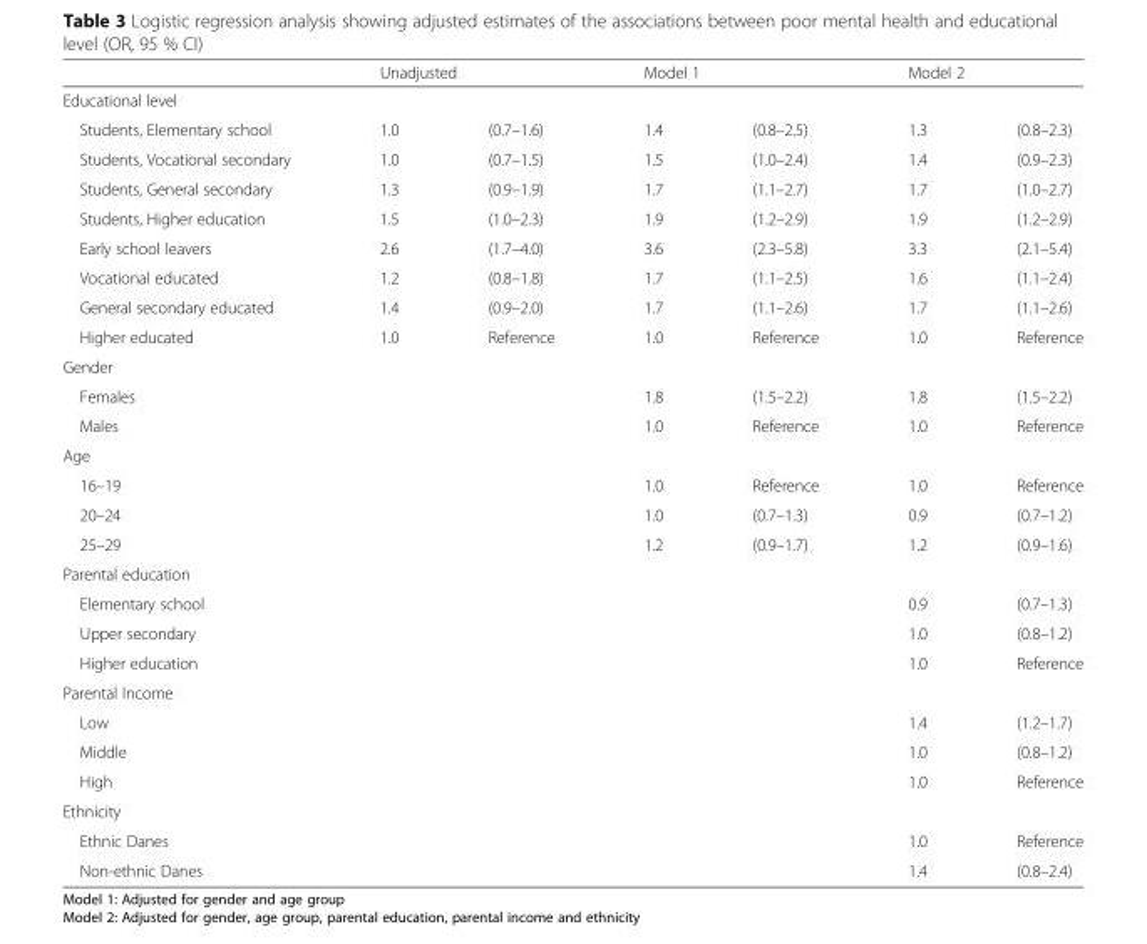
<table><thead><tr><td></td><td colspan="2">Unadjusted</td><td colspan="2">Model 1</td><td colspan="2">Model 2</td></tr><tr><td colspan="7">Educational level</td></tr><tr><td>Students, Elementary school</td><td>1.0</td><td>(0.7–1.6)</td><td>1.4</td><td>(0.8–2.5)</td><td>1.3</td><td>(0.8–2.3)</td></tr></thead><tbody><tr><td>Students, Vocational secondary</td><td>1.0</td><td>(0.7–1.5)</td><td>1.5</td><td>(1.0–2.4)</td><td>1.4</td><td>(0.9–2.3)</td></tr><tr><td>Students, General secondary</td><td>1.3</td><td>(0.9–1.9)</td><td>1.7</td><td>(1.1–2.7)</td><td>1.7</td><td>(1.0–2.7)</td></tr><tr><td>Students, Higher education</td><td>1.5</td><td>(1.0–2.3)</td><td>1.9</td><td>(1.2–2.9)</td><td>1.9</td><td>(1.2–2.9)</td></tr><tr><td>Early school leavers</td><td>2.6</td><td>(1.7–4.0)</td><td>3.6</td><td>(2.3–5.8)</td><td>3.3</td><td>(2.1–5.4)</td></tr><tr><td>Vocational educated</td><td>1.2</td><td>(0.8–1.8)</td><td>1.7</td><td>(1.1–2.5)</td><td>1.6</td><td>(1.1–2.4)</td></tr><tr><td>General secondary educated</td><td>1.4</td><td>(0.9–2.0)</td><td>1.7</td><td>(1.1–2.6)</td><td>1.7</td><td>(1.1–2.6)</td></tr><tr><td>Higher educated</td><td>1.0</td><td>Reference</td><td>1.0</td><td>Reference</td><td>1.0</td><td>Reference</td></tr><tr><td colspan="7">Gender</td></tr><tr><td>Females</td><td></td><td></td><td>1.8</td><td>(1.5–2.2)</td><td>1.8</td><td>(1.5–2.2)</td></tr><tr><td>Males</td><td></td><td></td><td>1.0</td><td>Reference</td><td>1.0</td><td>Reference</td></tr><tr><td colspan="7">Age</td></tr><tr><td>16–19</td><td></td><td></td><td>1.0</td><td>Reference</td><td>1.0</td><td>Reference</td></tr><tr><td>20–24</td><td></td><td></td><td>1.0</td><td>(0.7–1.3)</td><td>0.9</td><td>(0.7–1.2)</td></tr><tr><td>25–29</td><td></td><td></td><td>1.2</td><td>(0.9–1.7)</td><td>1.2</td><td>(0.9–1.6)</td></tr><tr><td colspan="7">Parental education</td></tr><tr><td>Elementary school</td><td></td><td></td><td></td><td></td><td>0.9</td><td>(0.7–1.3)</td></tr><tr><td>Upper secondary</td><td></td><td></td><td></td><td></td><td>1.0</td><td>(0.8–1.2)</td></tr><tr><td>Higher education</td><td></td><td></td><td></td><td></td><td>1.0</td><td>Reference</td></tr><tr><td colspan="7">Parental Income</td></tr><tr><td>Low</td><td></td><td></td><td></td><td></td><td>1.4</td><td>(1.2–1.7)</td></tr><tr><td>Middle</td><td></td><td></td><td></td><td></td><td>1.0</td><td>(0.8–1.2)</td></tr><tr><td>High</td><td></td><td></td><td></td><td></td><td>1.0</td><td>Reference</td></tr><tr><td colspan="7">Ethnicity</td></tr><tr><td>Ethnic Danes</td><td></td><td></td><td></td><td></td><td>1.0</td><td>Reference</td></tr><tr><td>Non-ethnic Danes</td><td></td><td></td><td></td><td></td><td>1.4</td><td>(0.8–2.4)</td></tr></tbody></table>